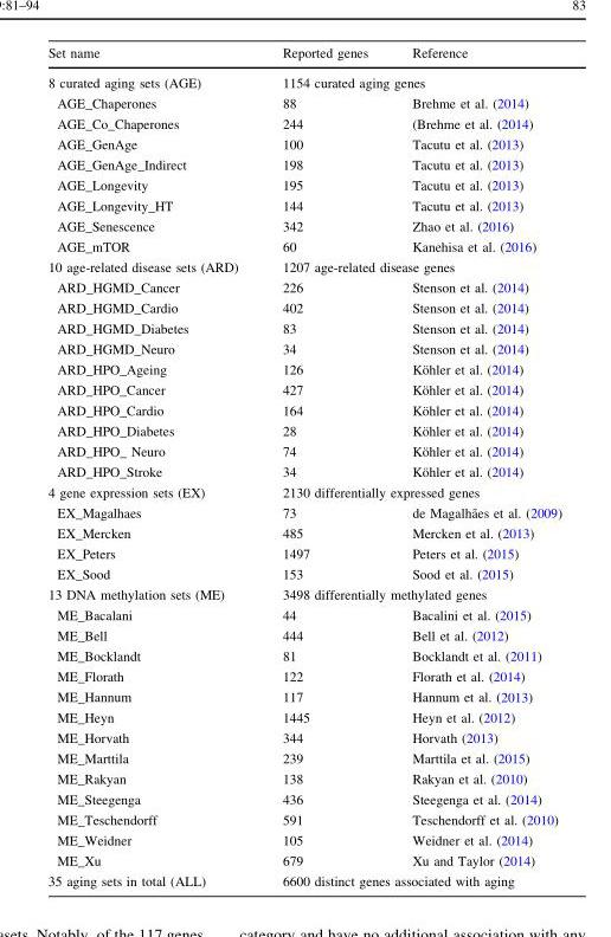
<table><thead><tr><td>Set name</td><td>Reported genes</td><td>Reference</td></tr></thead><tbody><tr><td>8 curated aging sets (AGE)</td><td colspan="2">1154 curated aging genes</td></tr><tr><td>AGE_Chaperones</td><td>88</td><td>Brehme et al. (2014)</td></tr><tr><td>AGE_Co_Chaperones</td><td>244</td><td>(Brehme et al. (2014)</td></tr><tr><td>AGE_GenAge</td><td>100</td><td>Tacutu et al. (2013)</td></tr><tr><td>AGE_GenAge_Indirect</td><td>198</td><td>Tacutu et al. (2013)</td></tr><tr><td>AGE_Longevity</td><td>195</td><td>Tacutu et al. (2013)</td></tr><tr><td>AGE_Longevity_HT</td><td>144</td><td>Tacutu et al. (2013)</td></tr><tr><td>AGE_Senescence</td><td>342</td><td>Zhao et al. (2016)</td></tr><tr><td>AGE_mTOR</td><td>60</td><td>Kanehisa et al. (2016)</td></tr><tr><td>10 age-related disease sets (ARD)</td><td colspan="2">1207 age-related disease genes</td></tr><tr><td>ARD_HGMD_Cancer</td><td>226</td><td>Stenson et al. (2014)</td></tr><tr><td>ARD_HGMD_Cardio</td><td>402</td><td>Stenson et al. (2014)</td></tr><tr><td>ARD_HGMD_Diabetes</td><td>83</td><td>Stenson et al. (2014)</td></tr><tr><td>ARD_HGMD_Neuro</td><td>34</td><td>Stenson et al. (2014)</td></tr><tr><td>ARD_HPO_Ageing</td><td>126</td><td>Ko¨hler et al. (2014)</td></tr><tr><td>ARD_HPO_Cancer</td><td>427</td><td>Ko¨hler et al. (2014)</td></tr><tr><td>ARD_HPO_Cardio</td><td>164</td><td>Ko¨hler et al. (2014)</td></tr><tr><td>ARD_HPO_Diabetes</td><td>28</td><td>Ko¨hler et al. (2014)</td></tr><tr><td>ARD_HPO_ Neuro</td><td>74</td><td>Ko¨hler et al. (2014)</td></tr><tr><td>ARD_HPO_Stroke</td><td>34</td><td>Ko¨hler et al. (2014)</td></tr><tr><td>4 gene expression sets (EX)</td><td colspan="2">2130 differentially expressed genes</td></tr><tr><td>EX_Magalhaes</td><td>73</td><td>de Magalha˜es et al. (2009)</td></tr><tr><td>EX_Mercken</td><td>485</td><td>Mercken et al. (2013)</td></tr><tr><td>EX_Peters</td><td>1497</td><td>Peters et al. (2015)</td></tr><tr><td>EX_Sood</td><td>153</td><td>Sood et al. (2015)</td></tr><tr><td>13 DNA methylation sets (ME)</td><td colspan="2">3498 differentially methylated genes</td></tr><tr><td>ME_Bacalani</td><td>44</td><td>Bacalini et al. (2015)</td></tr><tr><td>ME_Bell</td><td>444</td><td>Bell et al. (2012)</td></tr><tr><td>ME_Bocklandt</td><td>81</td><td>Bocklandt et al. (2011)</td></tr><tr><td>ME_Florath</td><td>122</td><td>Florath et al. (2014)</td></tr><tr><td>ME_Hannum</td><td>117</td><td>Hannum et al. (2013)</td></tr><tr><td>ME_Heyn</td><td>1445</td><td>Heyn et al. (2012)</td></tr><tr><td>ME_Horvath</td><td>344</td><td>Horvath (2013)</td></tr><tr><td>ME_Marttila</td><td>239</td><td>Marttila et al. (2015)</td></tr><tr><td>ME_Rakyan</td><td>138</td><td>Rakyan et al. (2010)</td></tr><tr><td>ME_Steegenga</td><td>436</td><td>Steegenga et al. (2014)</td></tr><tr><td>ME_Teschendorff</td><td>591</td><td>Teschendorff et al. (2010)</td></tr><tr><td>ME_Weidner</td><td>105</td><td>Weidner et al. (2014)</td></tr><tr><td>ME_Xu</td><td>679</td><td>Xu and Taylor (2014)</td></tr><tr><td>35 aging sets in total (ALL)</td><td colspan="2">6600 distinct genes associated with aging</td></tr></tbody></table>